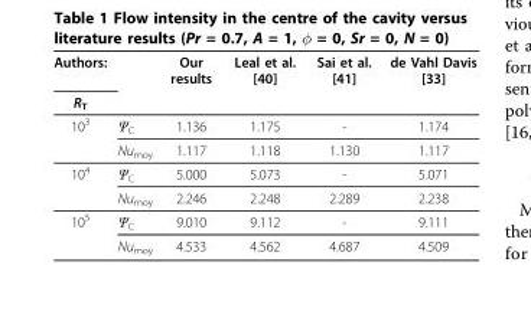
<table><thead><tr><td rowspan="2">Authors: R<sub>T</sub></td><td rowspan="2"></td><td rowspan="2">Our results</td><td rowspan="2">Leal et al. [40]</td><td rowspan="2">Sai et al. [41]</td><td rowspan="2">de Vahl Davis [33]</td></tr><tr></tr></thead><tbody><tr><td rowspan="2">10<sup>3</sup></td><td>Ψ<sub>C</sub></td><td>1.136</td><td>1.175</td><td>-</td><td>1.174</td></tr><tr><td>Nu<sub>moy</sub></td><td>1.117</td><td>1.118</td><td>1.130</td><td>1.117</td></tr><tr><td rowspan="2">10<sup>4</sup></td><td>Ψ<sub>C</sub></td><td>5.000</td><td>5.073</td><td>-</td><td>5.071</td></tr><tr><td>Nu<sub>moy</sub></td><td>2.246</td><td>2.248</td><td>2.289</td><td>2.238</td></tr><tr><td rowspan="2">10<sup>5</sup></td><td>Ψ<sub>C</sub></td><td>9.010</td><td>9.112</td><td>-</td><td>9.111</td></tr><tr><td>Nu<sub>moy</sub></td><td>4.533</td><td>4.562</td><td>4.687</td><td>4.509</td></tr></tbody></table>